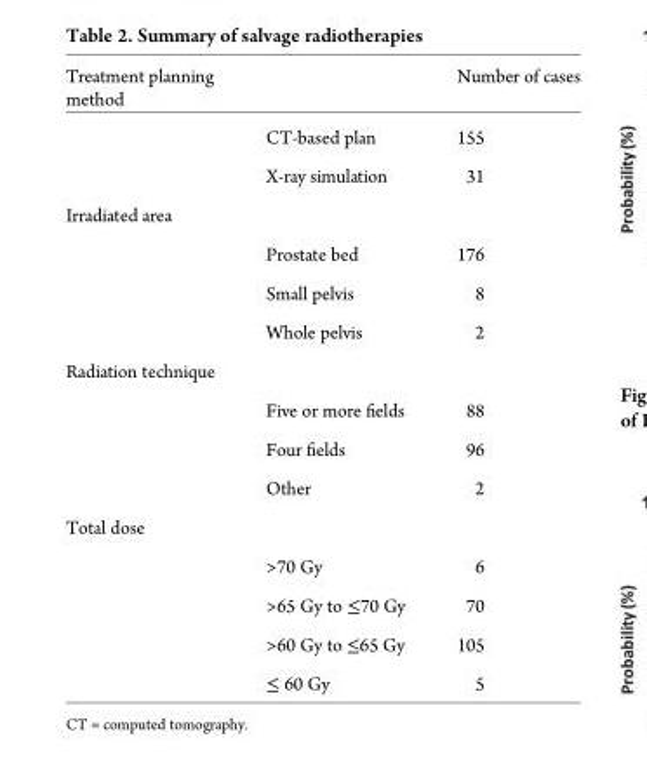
<table><thead><tr><td>Treatment planning method</td><td></td><td>Number of cases</td></tr></thead><tbody><tr><td></td><td>CT-based plan</td><td>155</td></tr><tr><td></td><td>X-ray simulation</td><td>31</td></tr><tr><td colspan="3">Irradiated area</td></tr><tr><td></td><td>Prostate bed</td><td>176</td></tr><tr><td></td><td>Small pelvis</td><td>8</td></tr><tr><td></td><td>Whole pelvis</td><td>2</td></tr><tr><td colspan="3">Radiation technique</td></tr><tr><td></td><td>Five or more fields</td><td>88</td></tr><tr><td></td><td>Four fields</td><td>96</td></tr><tr><td></td><td>Other</td><td>2</td></tr><tr><td colspan="3">Total dose</td></tr><tr><td></td><td>&gt;70 Gy</td><td>6</td></tr><tr><td></td><td>&gt;65 Gy to ≤70 Gy</td><td>70</td></tr><tr><td></td><td>&gt;60 Gy to ≤65 Gy</td><td>105</td></tr><tr><td></td><td>≤ 60 Gy</td><td>5</td></tr></tbody></table>